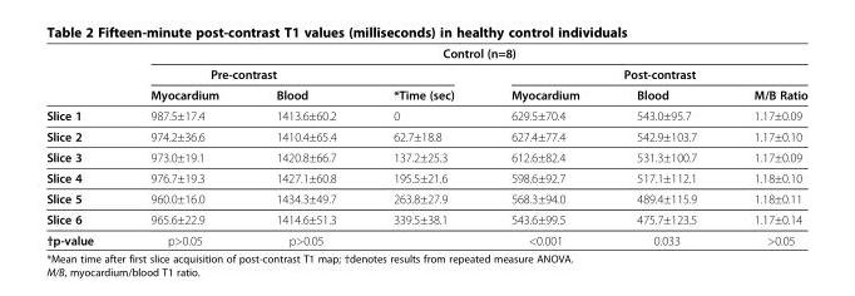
<table><thead><tr><td rowspan="3"></td><td colspan="6">Control (n=8)</td></tr><tr><td colspan="2">Pre-contrast</td><td rowspan="2">*Time (sec)</td><td colspan="3">Post-contrast</td></tr><tr><td>Myocardium</td><td>Blood</td><td>Myocardium</td><td>Blood</td><td>M/B Ratio</td></tr></thead><tbody><tr><td>Slice 1</td><td>987.5±17.4</td><td>1413.6±60.2</td><td>0</td><td>629.5±70.4</td><td>543.0±95.7</td><td>1.17±0.09</td></tr><tr><td>Slice 2</td><td>974.2±36.6</td><td>1410.4±65.4</td><td>62.7±18.8</td><td>627.4±77.4</td><td>542.9±103.7</td><td>1.17±0.10</td></tr><tr><td>Slice 3</td><td>973.0±19.1</td><td>1420.8±66.7</td><td>137.2±25.3</td><td>612.6±82.4</td><td>531.3±100.7</td><td>1.17±0.09</td></tr><tr><td>Slice 4</td><td>976.7±19.3</td><td>1427.1±60.8</td><td>195.5±21.6</td><td>598.6±92.7</td><td>517.1±112.1</td><td>1.18±0.10</td></tr><tr><td>Slice 5</td><td>960.0±16.0</td><td>1434.3±49.7</td><td>263.8±27.9</td><td>568.3±94.0</td><td>489.4±115.9</td><td>1.18±0.11</td></tr><tr><td>Slice 6</td><td>965.6±22.9</td><td>1414.6±51.3</td><td>339.5±38.1</td><td>543.6±99.5</td><td>475.7±123.5</td><td>1.17±0.14</td></tr><tr><td>†p-value</td><td>p&gt;0.05</td><td>p&gt;0.05</td><td></td><td>&lt;0.001</td><td>0.033</td><td>&gt;0.05</td></tr></tbody></table>